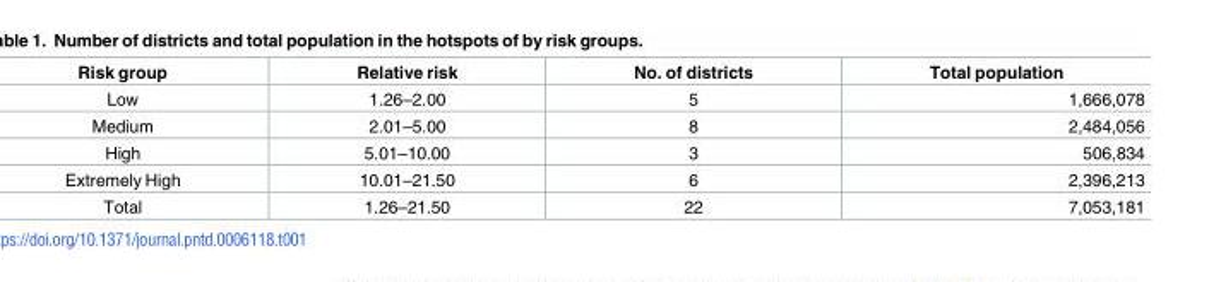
<table><thead><tr><td>Risk group</td><td>Relative risk</td><td>No. of districts</td><td>Total population</td></tr></thead><tbody><tr><td>Low</td><td>1.26–2.00</td><td>5</td><td>1,666,078</td></tr><tr><td>Medium</td><td>2.01–5.00</td><td>8</td><td>2,484,056</td></tr><tr><td>High</td><td>5.01–10.00</td><td>3</td><td>506,834</td></tr><tr><td>Extremely High</td><td>10.01–21.50</td><td>6</td><td>2,396,213</td></tr><tr><td>Total</td><td>1.26–21.50</td><td>22</td><td>7,053,181</td></tr></tbody></table>